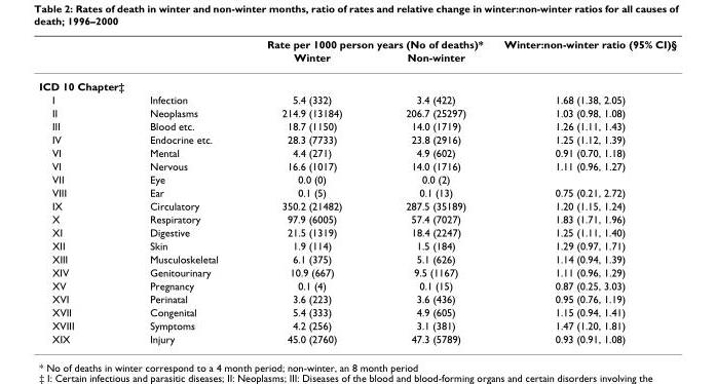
<table><thead><tr><td rowspan="2"></td><td rowspan="2"></td><td colspan="2">Rate per 1000 person years (No of deaths)*</td><td rowspan="2">Winter:non-winter ratio (95% CI)§</td></tr><tr><td>Winter</td><td>Non-winter</td></tr></thead><tbody><tr><td colspan="5">ICD 10 Chapter‡</td></tr><tr><td>I</td><td>Infection</td><td>5.4 (332)</td><td>3.4 (422)</td><td>1.68 (1.38, 2.05)</td></tr><tr><td>II</td><td>Neoplasms</td><td>214.9 (13184)</td><td>206.7 (25297)</td><td>1.03 (0.98, 1.08)</td></tr><tr><td>III</td><td>Blood etc.</td><td>18.7 (1150)</td><td>14.0 (1719)</td><td>1.26 (1.11, 1.43)</td></tr><tr><td>IV</td><td>Endocrine etc.</td><td>28.3 (7733)</td><td>23.8 (2916)</td><td>1.25 (1.12, 1.39)</td></tr><tr><td>VI</td><td>Mental</td><td>4.4 (271)</td><td>4.9 (602)</td><td>0.91 (0.70, 1.18)</td></tr><tr><td>VI</td><td>Nervous</td><td>16.6 (1017)</td><td>14.0 (1716)</td><td>1.11 (0.96, 1.27)</td></tr><tr><td>VII</td><td>Eye</td><td>0.0 (0)</td><td>0.0 (2)</td><td></td></tr><tr><td>VIII</td><td>Ear</td><td>0.1 (5)</td><td>0.1 (13)</td><td>0.75 (0.21, 2.72)</td></tr><tr><td>IX</td><td>Circulatory</td><td>350.2 (21482)</td><td>287.5 (35189)</td><td>1.20 (1.15, 1.24)</td></tr><tr><td>X</td><td>Respiratory</td><td>97.9 (6005)</td><td>57.4 (7027)</td><td>1.83 (1.71, 1.96)</td></tr><tr><td>XI</td><td>Digestive</td><td>21.5 (1319)</td><td>18.4 (2247)</td><td>1.25 (1.11, 1.40)</td></tr><tr><td>XII</td><td>Skin</td><td>1.9 (114)</td><td>1.5 (184)</td><td>1.29 (0.97, 1.71)</td></tr><tr><td>XIII</td><td>Musculoskeletal</td><td>6.1 (375)</td><td>5.1 (626)</td><td>1.14 (0.94, 1.39)</td></tr><tr><td>XIV</td><td>Genitourinary</td><td>10.9 (667)</td><td>9.5 (1167)</td><td>1.11 (0.96, 1.29)</td></tr><tr><td>XV</td><td>Pregnancy</td><td>0.1 (4)</td><td>0.1 (15)</td><td>0.87 (0.25, 3.03)</td></tr><tr><td>XVI</td><td>Perinatal</td><td>3.6 (223)</td><td>3.6 (436)</td><td>0.95 (0.76, 1.19)</td></tr><tr><td>XVII</td><td>Congenital</td><td>5.4 (333)</td><td>4.9 (605)</td><td>1.15 (0.94, 1.41)</td></tr><tr><td>XVIII</td><td>Symptoms</td><td>4.2 (256)</td><td>3.1 (381)</td><td>1.47 (1.20, 1.81)</td></tr><tr><td>XIX</td><td>Injury</td><td>45.0 (2760)</td><td>47.3 (5789)</td><td>0.93 (0.91, 1.08)</td></tr></tbody></table>